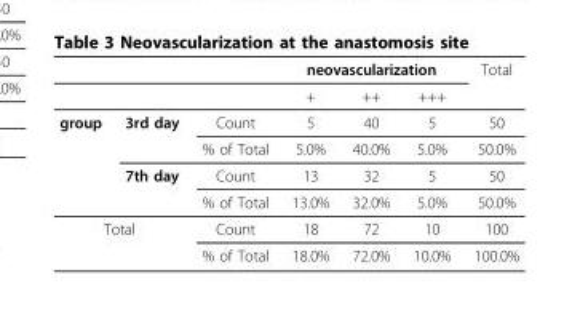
<table><thead><tr><td rowspan="2"></td><td rowspan="2"></td><td rowspan="2"></td><td colspan="3">neovascularization</td><td rowspan="2">Total</td></tr><tr><td>+</td><td>++</td><td>+++</td></tr></thead><tbody><tr><td rowspan="4">group</td><td>3rd day</td><td>Count</td><td>5</td><td>40</td><td>5</td><td>50</td></tr><tr><td></td><td>% of Total</td><td>5.0%</td><td>40.0%</td><td>5.0%</td><td>50.0%</td></tr><tr><td>7th day</td><td>Count</td><td>13</td><td>32</td><td>5</td><td>50</td></tr><tr><td></td><td>% of Total</td><td>13.0%</td><td>32.0%</td><td>5.0%</td><td>50.0%</td></tr><tr><td colspan="2">Total</td><td>Count</td><td>18</td><td>72</td><td>10</td><td>100</td></tr><tr><td></td><td></td><td>% of Total</td><td>18.0%</td><td>72.0%</td><td>10.0%</td><td>100.0%</td></tr></tbody></table>